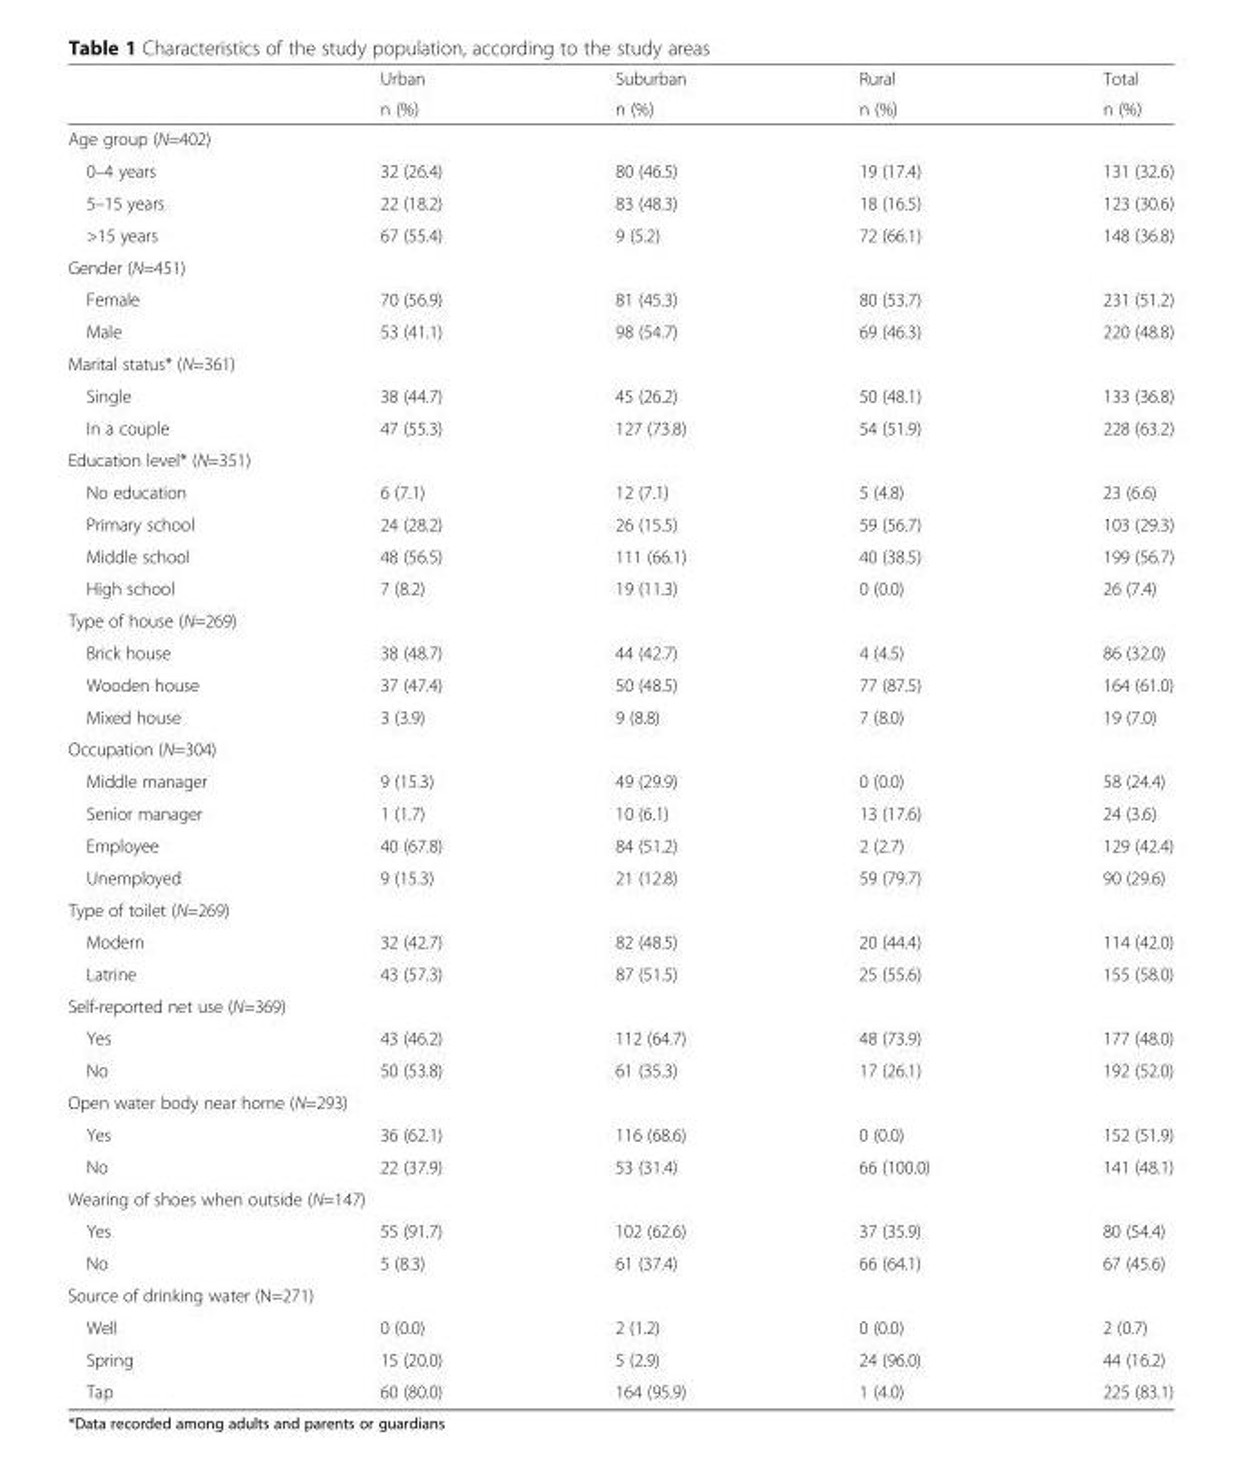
<table><thead><tr><td rowspan="2"></td><td rowspan="2">Urban n (%)</td><td rowspan="2">Suburban n (%)</td><td rowspan="2">Rural n (%)</td><td rowspan="2">Total n (%)</td></tr><tr></tr></thead><tbody><tr><td colspan="5">Age group (N=402)</td></tr><tr><td>0–4 years</td><td>32 (26.4)</td><td>80 (46.5)</td><td>19 (17.4)</td><td>131 (32.6)</td></tr><tr><td>5–15 years</td><td>22 (18.2)</td><td>83 (48.3)</td><td>18 (16.5)</td><td>123 (30.6)</td></tr><tr><td>&gt;15 years</td><td>67 (55.4)</td><td>9 (5.2)</td><td>72 (66.1)</td><td>148 (36.8)</td></tr><tr><td colspan="5">Gender (N=451)</td></tr><tr><td>Female</td><td>70 (56.9)</td><td>81 (45.3)</td><td>80 (53.7)</td><td>231 (51.2)</td></tr><tr><td>Male</td><td>53 (41.1)</td><td>98 (54.7)</td><td>69 (46.3)</td><td>220 (48.8)</td></tr><tr><td colspan="5">Marital status* (N=361)</td></tr><tr><td>Single</td><td>38 (44.7)</td><td>45 (26.2)</td><td>50 (48.1)</td><td>133 (36.8)</td></tr><tr><td>In a couple</td><td>47 (55.3)</td><td>127 (73.8)</td><td>54 (51.9)</td><td>228 (63.2)</td></tr><tr><td colspan="5">Education level* (N=351)</td></tr><tr><td>No education</td><td>6 (7.1)</td><td>12 (7.1)</td><td>5 (4.8)</td><td>23 (6.6)</td></tr><tr><td>Primary school</td><td>24 (28.2)</td><td>26 (15.5)</td><td>59 (56.7)</td><td>103 (29.3)</td></tr><tr><td>Middle school</td><td>48 (56.5)</td><td>111 (66.1)</td><td>40 (38.5)</td><td>199 (56.7)</td></tr><tr><td>High school</td><td>7 (8.2)</td><td>19 (11.3)</td><td>0 (0.0)</td><td>26 (7.4)</td></tr><tr><td colspan="5">Type of house (N=269)</td></tr><tr><td>Brick house</td><td>38 (48.7)</td><td>44 (42.7)</td><td>4 (4.5)</td><td>86 (32.0)</td></tr><tr><td>Wooden house</td><td>37 (47.4)</td><td>50 (48.5)</td><td>77 (87.5)</td><td>164 (61.0)</td></tr><tr><td>Mixed house</td><td>3 (3.9)</td><td>9 (8.8)</td><td>7 (8.0)</td><td>19 (7.0)</td></tr><tr><td colspan="5">Occupation (N=304)</td></tr><tr><td>Middle manager</td><td>9 (15.3)</td><td>49 (29.9)</td><td>0 (0.0)</td><td>58 (24.4)</td></tr><tr><td>Senior manager</td><td>1 (1.7)</td><td>10 (6.1)</td><td>13 (17.6)</td><td>24 (3.6)</td></tr><tr><td>Employee</td><td>40 (67.8)</td><td>84 (51.2)</td><td>2 (2.7)</td><td>129 (42.4)</td></tr><tr><td>Unemployed</td><td>9 (15.3)</td><td>21 (12.8)</td><td>59 (79.7)</td><td>90 (29.6)</td></tr><tr><td colspan="5">Type of toilet (N=269)</td></tr><tr><td>Modern</td><td>32 (42.7)</td><td>82 (48.5)</td><td>20 (44.4)</td><td>114 (42.0)</td></tr><tr><td>Latrine</td><td>43 (57.3)</td><td>87 (51.5)</td><td>25 (55.6)</td><td>155 (58.0)</td></tr><tr><td colspan="5">Self-reported net use (N=369)</td></tr><tr><td>Yes</td><td>43 (46.2)</td><td>112 (64.7)</td><td>48 (73.9)</td><td>177 (48.0)</td></tr><tr><td>No</td><td>50 (53.8)</td><td>61 (35.3)</td><td>17 (26.1)</td><td>192 (52.0)</td></tr><tr><td colspan="5">Open water body near home (N=293)</td></tr><tr><td>Yes</td><td>36 (62.1)</td><td>116 (68.6)</td><td>0 (0.0)</td><td>152 (51.9)</td></tr><tr><td>No</td><td>22 (37.9)</td><td>53 (31.4)</td><td>66 (100.0)</td><td>141 (48.1)</td></tr><tr><td colspan="5">Wearing of shoes when outside (N=147)</td></tr><tr><td>Yes</td><td>55 (91.7)</td><td>102 (62.6)</td><td>37 (35.9)</td><td>80 (54.4)</td></tr><tr><td>No</td><td>5 (8.3)</td><td>61 (37.4)</td><td>66 (64.1)</td><td>67 (45.6)</td></tr><tr><td colspan="5">Source of drinking water (N=271)</td></tr><tr><td>Well</td><td>0 (0.0)</td><td>2 (1.2)</td><td>0 (0.0)</td><td>2 (0.7)</td></tr><tr><td>Spring</td><td>15 (20.0)</td><td>5 (2.9)</td><td>24 (96.0)</td><td>44 (16.2)</td></tr><tr><td>Tap</td><td>60 (80.0)</td><td>164 (95.9)</td><td>1 (4.0)</td><td>225 (83.1)</td></tr></tbody></table>